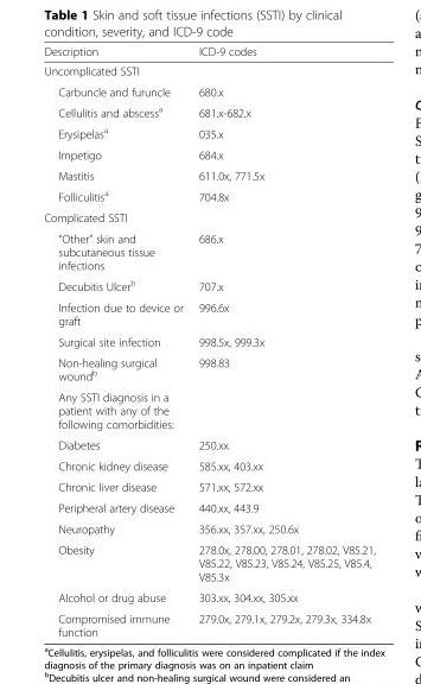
<table><thead><tr><td>Description</td><td>ICD-9 codes</td></tr></thead><tbody><tr><td colspan="2">Uncomplicated SSTI</td></tr><tr><td>Carbuncle and furuncle</td><td>680.x</td></tr><tr><td>Cellulitis and abscess<sup>a</sup></td><td>681.x-682.x</td></tr><tr><td>Erysipelas<sup>a</sup></td><td>035.x</td></tr><tr><td>Impetigo</td><td>684.x</td></tr><tr><td>Mastitis</td><td>611.0x, 771.5x</td></tr><tr><td>Folliculitis<sup>a</sup></td><td>704.8x</td></tr><tr><td colspan="2">Complicated SSTI</td></tr><tr><td>“Other” skin and subcutaneous tissue infections</td><td>686.x</td></tr><tr><td>Decubitis Ulcer<sup>b</sup></td><td>707.x</td></tr><tr><td>Infection due to device or graft</td><td>996.6x</td></tr><tr><td>Surgical site infection</td><td>998.5x, 999.3x</td></tr><tr><td>Non-healing surgical wound<sup>b</sup></td><td>998.83</td></tr><tr><td colspan="2">Any SSTI diagnosis in a patient with any of the following comorbidities:</td></tr><tr><td>Diabetes</td><td>250.xx</td></tr><tr><td>Chronic kidney disease</td><td>585.xx, 403.xx</td></tr><tr><td>Chronic liver disease</td><td>571.xx, 572.xx</td></tr><tr><td>Peripheral artery disease</td><td>440.xx, 443.9</td></tr><tr><td>Neuropathy</td><td>356.xx, 357.xx, 250.6x</td></tr><tr><td>Obesity</td><td>278.0x, 278.00, 278.01, 278.02, V85.21, V85.22, V85.23, V85.24, V85.25, V85.4, V85.3x</td></tr><tr><td>Alcohol or drug abuse</td><td>303.xx, 304.xx, 305.xx</td></tr><tr><td>Compromised immune function</td><td>279.0x, 279.1x, 279.2x, 279.3x, 334.8x</td></tr></tbody></table>